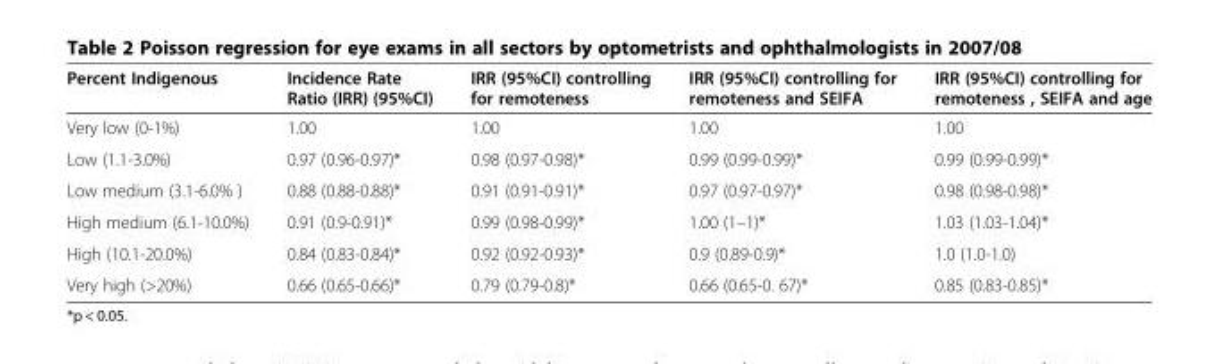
<table><thead><tr><td>Percent Indigenous</td><td>Incidence Rate Ratio (IRR) (95%CI)</td><td>IRR (95%CI) controlling for remoteness</td><td>IRR (95%CI) controlling for remoteness and SEIFA</td><td>IRR (95%CI) controlling for remoteness , SEIFA and age</td></tr></thead><tbody><tr><td>Very low (0-1%)</td><td>1.00</td><td>1.00</td><td>1.00</td><td>1.00</td></tr><tr><td>Low (1.1-3.0%)</td><td>0.97 (0.96-0.97)*</td><td>0.98 (0.97-0.98)*</td><td>0.99 (0.99-0.99)*</td><td>0.99 (0.99-0.99)*</td></tr><tr><td>Low medium (3.1-6.0% )</td><td>0.88 (0.88-0.88)*</td><td>0.91 (0.91-0.91)*</td><td>0.97 (0.97-0.97)*</td><td>0.98 (0.98-0.98)*</td></tr><tr><td>High medium (6.1-10.0%)</td><td>0.91 (0.9-0.91)*</td><td>0.99 (0.98-0.99)*</td><td>1.00 (1–1)*</td><td>1.03 (1.03-1.04)*</td></tr><tr><td>High (10.1-20.0%)</td><td>0.84 (0.83-0.84)*</td><td>0.92 (0.92-0.93)*</td><td>0.9 (0.89-0.9)*</td><td>1.0 (1.0-1.0)</td></tr><tr><td>Very high (&gt;20%)</td><td>0.66 (0.65-0.66)*</td><td>0.79 (0.79-0.8)*</td><td>0.66 (0.65-0. 67)*</td><td>0.85 (0.83-0.85)*</td></tr></tbody></table>